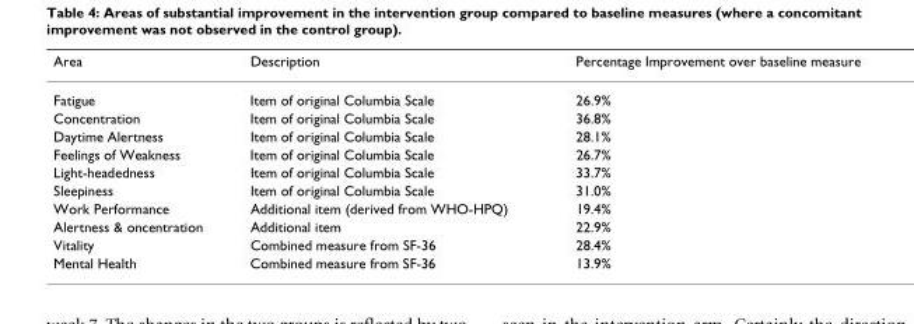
<table><thead><tr><td>Area</td><td>Description</td><td>Percentage Improvement over baseline measure</td></tr></thead><tbody><tr><td>Fatigue</td><td>Item of original Columbia Scale</td><td>26.9%</td></tr><tr><td>Concentration</td><td>Item of original Columbia Scale</td><td>36.8%</td></tr><tr><td>Daytime Alertness</td><td>Item of original Columbia Scale</td><td>28.1%</td></tr><tr><td>Feelings of Weakness</td><td>Item of original Columbia Scale</td><td>26.7%</td></tr><tr><td>Light-headedness</td><td>Item of original Columbia Scale</td><td>33.7%</td></tr><tr><td>Sleepiness</td><td>Item of original Columbia Scale</td><td>31.0%</td></tr><tr><td>Work Performance</td><td>Additional item (derived from WHO-HPQ)</td><td>19.4%</td></tr><tr><td>Alertness &amp; oncentration</td><td>Additional item</td><td>22.9%</td></tr><tr><td>Vitality</td><td>Combined measure from SF-36</td><td>28.4%</td></tr><tr><td>Mental Health</td><td>Combined measure from SF-36</td><td>13.9%</td></tr></tbody></table>